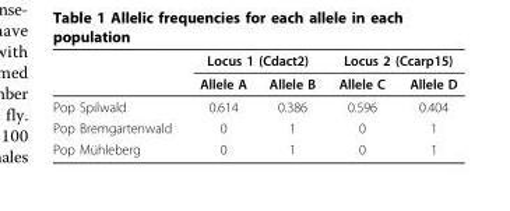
<table><thead><tr><td rowspan="2"></td><td colspan="2">Locus 1 (Cdact2)</td><td colspan="2">Locus 2 (Ccarp15)</td></tr><tr><td>Allele A</td><td>Allele B</td><td>Allele C</td><td>Allele D</td></tr></thead><tbody><tr><td>Pop Spilwald</td><td>0.614</td><td>0.386</td><td>0.596</td><td>0.404</td></tr><tr><td>Pop Bremgartenwald</td><td>0</td><td>1</td><td>0</td><td>1</td></tr><tr><td>Pop Mühleberg</td><td>0</td><td>1</td><td>0</td><td>1</td></tr></tbody></table>